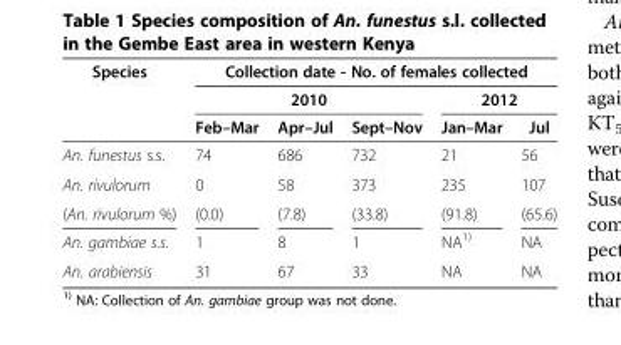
<table><thead><tr><td rowspan="3">Species</td><td colspan="5">Collection date - No. of females collected</td></tr><tr><td colspan="3">2010</td><td colspan="2">2012</td></tr><tr><td>Feb–Mar</td><td>Apr–Jul</td><td>Sept–Nov</td><td>Jan–Mar</td><td>Jul</td></tr></thead><tbody><tr><td>An. funestus s.s.</td><td>74</td><td>686</td><td>732</td><td>21</td><td>56</td></tr><tr><td>An. rivulorum</td><td>0</td><td>58</td><td>373</td><td>235</td><td>107</td></tr><tr><td>(An. rivulorum %)</td><td>(0.0)</td><td>(7.8)</td><td>(33.8)</td><td>(91.8)</td><td>(65.6)</td></tr><tr><td>An. gambiae s.s.</td><td>1</td><td>8</td><td>1</td><td>NA<sup>1)</sup></td><td>NA</td></tr><tr><td>An. arabiensis</td><td>31</td><td>67</td><td>33</td><td>NA</td><td>NA</td></tr></tbody></table>